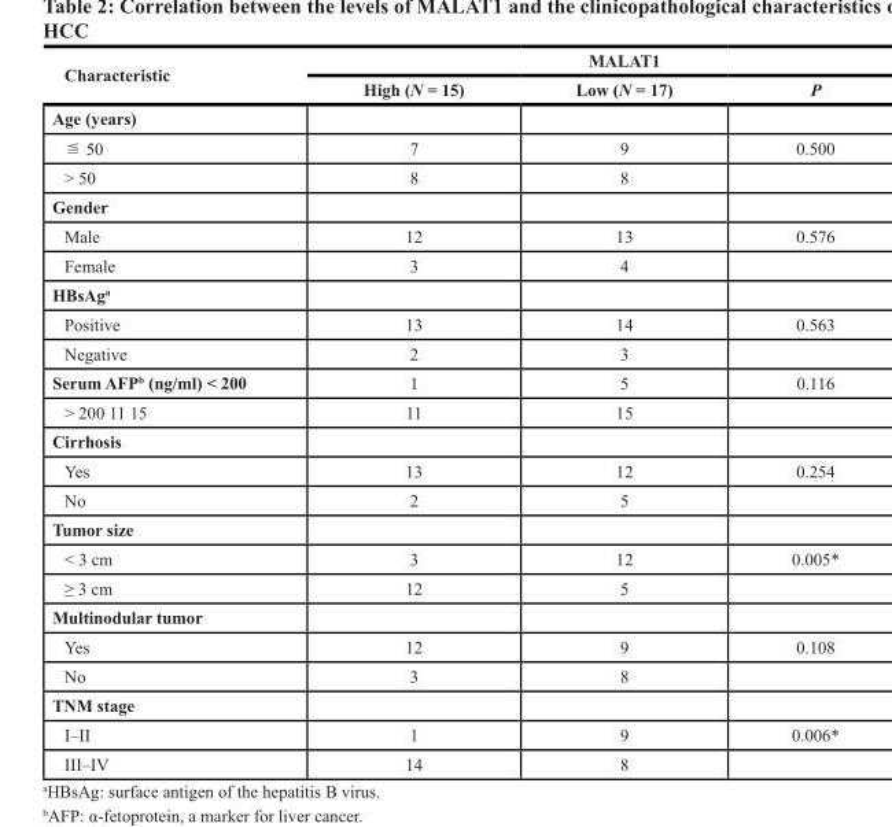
<table><thead><tr><td rowspan="2">Characteristic</td><td colspan="3">MALAT1</td></tr><tr><td>High (N = 15)</td><td>Low (N = 17)</td><td>P</td></tr></thead><tbody><tr><td colspan="4">Age (years)</td></tr><tr><td>≦ 50</td><td>7</td><td>9</td><td>0.500</td></tr><tr><td>&gt; 50</td><td>8</td><td>8</td><td></td></tr><tr><td colspan="4">Gender</td></tr><tr><td>Male</td><td>12</td><td>13</td><td>0.576</td></tr><tr><td>Female</td><td>3</td><td>4</td><td></td></tr><tr><td colspan="4">HBsAg<sup>a</sup></td></tr><tr><td>Positive</td><td>13</td><td>14</td><td>0.563</td></tr><tr><td>Negative</td><td>2</td><td>3</td><td></td></tr><tr><td>Serum AFP<sup>b</sup> (ng/ml) &lt; 200</td><td>1</td><td>5</td><td>0.116</td></tr><tr><td>&gt; 200 11 15</td><td>11</td><td>15</td><td></td></tr><tr><td colspan="4">Cirrhosis</td></tr><tr><td>Yes</td><td>13</td><td>12</td><td>0.254</td></tr><tr><td>No</td><td>2</td><td>5</td><td></td></tr><tr><td colspan="4">Tumor size</td></tr><tr><td>&lt; 3 cm</td><td>3</td><td>12</td><td>0.005*</td></tr><tr><td>≥ 3 cm</td><td>12</td><td>5</td><td></td></tr><tr><td colspan="4">Multinodular tumor</td></tr><tr><td>Yes</td><td>12</td><td>9</td><td>0.108</td></tr><tr><td>No</td><td>3</td><td>8</td><td></td></tr><tr><td colspan="4">TNM stage</td></tr><tr><td>I–II</td><td>1</td><td>9</td><td>0.006*</td></tr><tr><td>III–IV</td><td>14</td><td>8</td><td></td></tr></tbody></table>